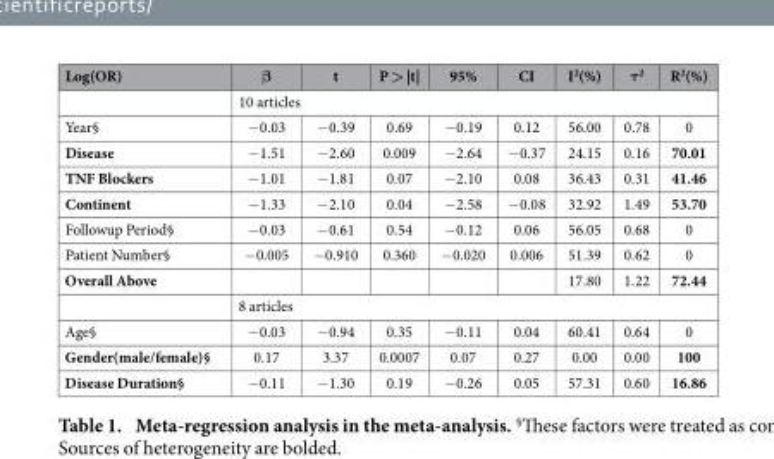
<table><thead><tr><td>Log(OR)</td><td>β</td><td>t</td><td>P &gt; |t|</td><td>95%</td><td>CI</td><td>I<sup>2</sup>(%)</td><td>τ<sup>2</sup></td><td>R<sup>2</sup>(%)</td></tr></thead><tbody><tr><td></td><td colspan="8">10 articles</td></tr><tr><td>Year§</td><td>− 0.03</td><td>− 0.39</td><td>0.69</td><td>− 0.19</td><td>0.12</td><td>56.00</td><td>0.78</td><td>0</td></tr><tr><td>Disease</td><td>− 1.51</td><td>− 2.60</td><td>0.009</td><td>− 2.64</td><td>− 0.37</td><td>24.15</td><td>0.16</td><td>70.01</td></tr><tr><td>TNF Blockers</td><td>− 1.01</td><td>− 1.81</td><td>0.07</td><td>− 2.10</td><td>0.08</td><td>36.43</td><td>0.31</td><td>41.46</td></tr><tr><td>Continent</td><td>− 1.33</td><td>− 2.10</td><td>0.04</td><td>− 2.58</td><td>− 0.08</td><td>32.92</td><td>1.49</td><td>53.70</td></tr><tr><td>Followup Period§</td><td>− 0.03</td><td>− 0.61</td><td>0.54</td><td>− 0.12</td><td>0.06</td><td>56.05</td><td>0.68</td><td>0</td></tr><tr><td>Patient Number§</td><td>− 0.005</td><td>− 0.910</td><td>0.360</td><td>− 0.020</td><td>0.006</td><td>51.39</td><td>0.62</td><td>0</td></tr><tr><td rowspan="2">Overall Above</td><td></td><td></td><td></td><td></td><td></td><td>17.80</td><td>1.22</td><td>72.44</td></tr><tr><td colspan="8">8 articles</td></tr><tr><td>Age§</td><td>− 0.03</td><td>− 0.94</td><td>0.35</td><td>− 0.11</td><td>0.04</td><td>60.41</td><td>0.64</td><td>0</td></tr><tr><td>Gender(male/female)§</td><td>0.17</td><td>3.37</td><td>0.0007</td><td>0.07</td><td>0.27</td><td>0.00</td><td>0.00</td><td>100</td></tr><tr><td>Disease Duration§</td><td>− 0.11</td><td>− 1.30</td><td>0.19</td><td>− 0.26</td><td>0.05</td><td>57.31</td><td>0.60</td><td>16.86</td></tr></tbody></table>